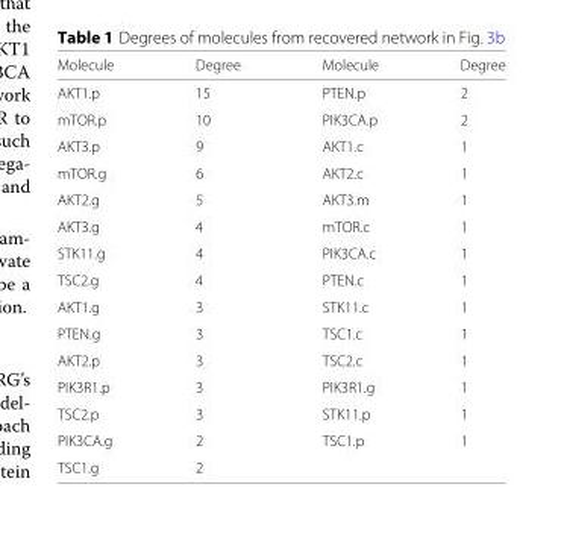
<table><thead><tr><td>Molecule</td><td>Degree</td><td>Molecule</td><td>Degree</td></tr></thead><tbody><tr><td>AKT1.p</td><td>15</td><td>PTEN.p</td><td>2</td></tr><tr><td>mTOR.p</td><td>10</td><td>PIK3CA.p</td><td>2</td></tr><tr><td>AKT3.p</td><td>9</td><td>AKT1.c</td><td>1</td></tr><tr><td>mTOR.g</td><td>6</td><td>AKT2.c</td><td>1</td></tr><tr><td>AKT2.g</td><td>5</td><td>AKT3.m</td><td>1</td></tr><tr><td>AKT3.g</td><td>4</td><td>mTOR.c</td><td>1</td></tr><tr><td>STK11.g</td><td>4</td><td>PIK3CA.c</td><td>1</td></tr><tr><td>TSC2.g</td><td>4</td><td>PTEN.c</td><td>1</td></tr><tr><td>AKT1.g</td><td>3</td><td>STK11.c</td><td>1</td></tr><tr><td>PTEN.g</td><td>3</td><td>TSC1.c</td><td>1</td></tr><tr><td>AKT2.p</td><td>3</td><td>TSC2.c</td><td>1</td></tr><tr><td>PIK3R1.p</td><td>3</td><td>PIK3R1.g</td><td>1</td></tr><tr><td>TSC2.p</td><td>3</td><td>STK11.p</td><td>1</td></tr><tr><td>PIK3CA.g</td><td>2</td><td>TSC1.p</td><td>1</td></tr><tr><td>TSC1.g</td><td>2</td><td></td><td></td></tr></tbody></table>